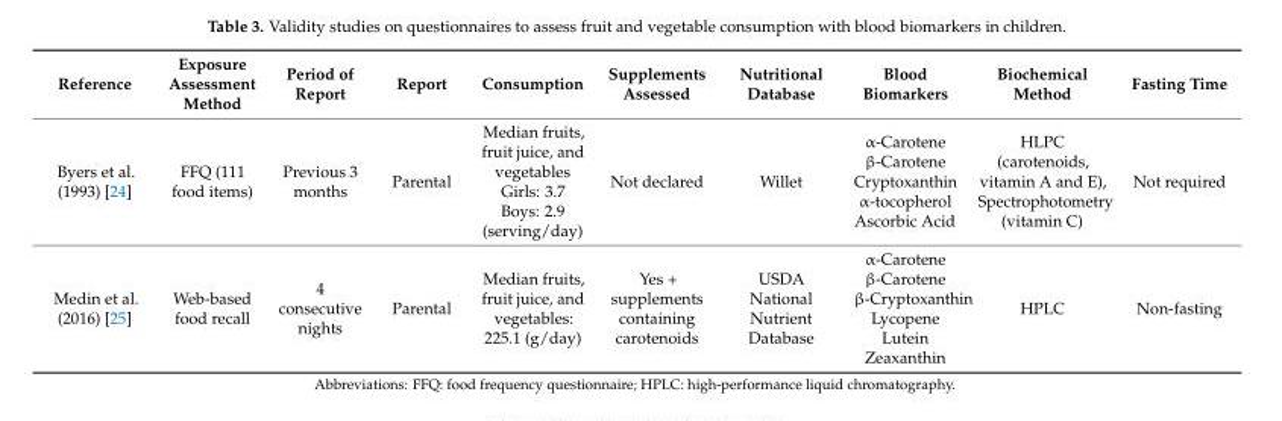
<table><thead><tr><td>Reference</td><td>Exposure Assessment Method</td><td>Period of Report</td><td>Report</td><td>Consumption</td><td>Supplements Assessed</td><td>Nutritional Database</td><td>Blood Biomarkers</td><td>Biochemical Method</td><td>Fasting Time</td></tr></thead><tbody><tr><td>Byers et al. (1993) [24]</td><td>FFQ (111 food items)</td><td>Previous 3 months</td><td>Parental</td><td>Median fruits, fruit juice, and vegetables Girls: 3.7 Boys: 2.9 (serving/day)</td><td>Not declared</td><td>Willet</td><td>α-Carotene β-Carotene Cryptoxanthin α-tocopherol Ascorbic Acid</td><td>HLPC (carotenoids, vitamin A and E), Spectrophotometry (vitamin C)</td><td>Not required</td></tr><tr><td>Medin et al. (2016) [25]</td><td>Web-based food recall</td><td>4 consecutive nights</td><td>Parental</td><td>Median fruits, fruit juice, and vegetables: 225.1 (g/day)</td><td>Yes + supplements containing carotenoids</td><td>USDA National Nutrient Database</td><td>α-Carotene β-Carotene β-Cryptoxanthin Lycopene Lutein Zeaxanthin</td><td>HPLC</td><td>Non-fasting</td></tr></tbody></table>